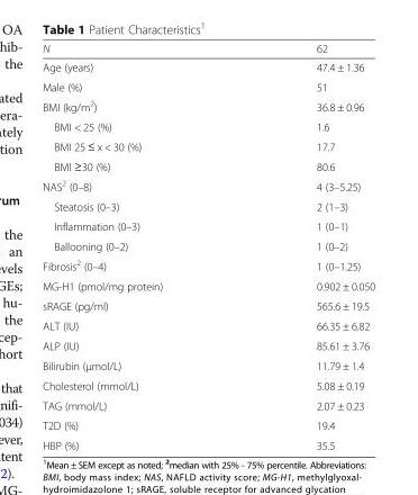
<table><thead><tr><td>N</td><td>62</td></tr></thead><tbody><tr><td>Age (years)</td><td>47.4 ± 1.36</td></tr><tr><td>Male (%)</td><td>51</td></tr><tr><td>BMI (kg/m<sup>2</sup>)</td><td>36.8 ± 0.96</td></tr><tr><td>BMI &lt; 25 (%)</td><td>1.6</td></tr><tr><td>BMI 25 ≤ x &lt; 30 (%)</td><td>17.7</td></tr><tr><td>BMI ≥30 (%)</td><td>80.6</td></tr><tr><td>NAS<sup>2</sup> (0–8)</td><td>4 (3–5.25)</td></tr><tr><td>Steatosis (0–3)</td><td>2 (1–3)</td></tr><tr><td>Inflammation (0–3)</td><td>1 (0–1)</td></tr><tr><td>Ballooning (0–2)</td><td>1 (0–2)</td></tr><tr><td>Fibrosis<sup>2</sup> (0–4)</td><td>1 (0–1.25)</td></tr><tr><td>MG-H1 (pmol/mg protein)</td><td>0.902 ± 0.050</td></tr><tr><td>sRAGE (pg/ml)</td><td>565.6 ± 19.5</td></tr><tr><td>ALT (IU)</td><td>66.35 ± 6.82</td></tr><tr><td>ALP (IU)</td><td>85.61 ± 3.76</td></tr><tr><td>Bilirubin (μmol/L)</td><td>11.79 ± 1.4</td></tr><tr><td>Cholesterol (mmol/L)</td><td>5.08 ± 0.19</td></tr><tr><td>TAG (mmol/L)</td><td>2.07 ± 0.23</td></tr><tr><td>T2D (%)</td><td>19.4</td></tr><tr><td>HBP (%)</td><td>35.5</td></tr></tbody></table>